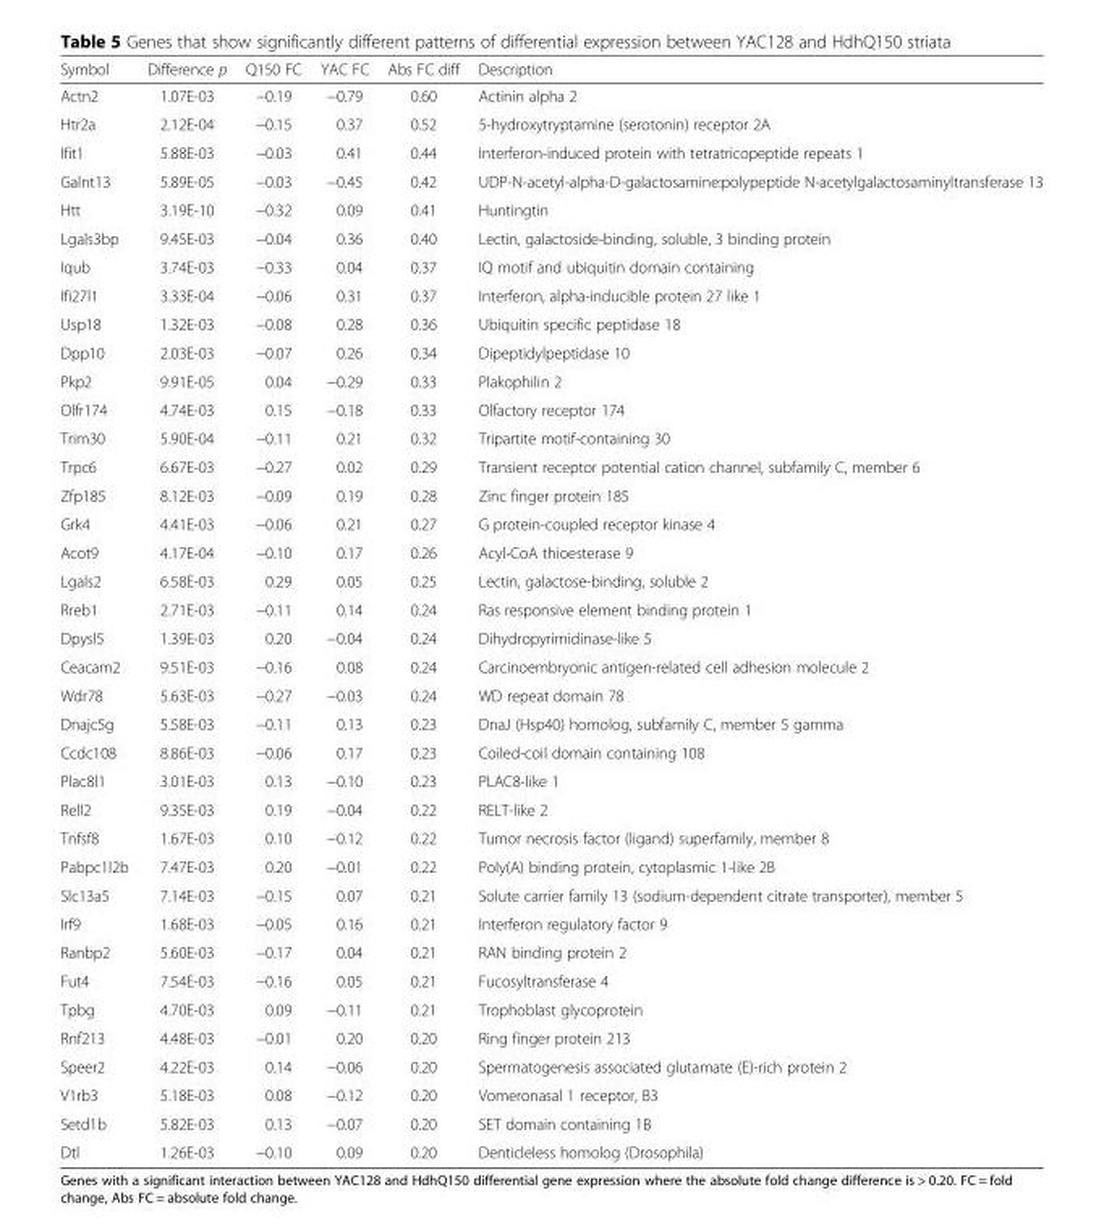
<table><thead><tr><td>Symbol</td><td>Difference p</td><td>Q150 FC</td><td>YAC FC</td><td>Abs FC diff</td><td>Description</td></tr></thead><tbody><tr><td>Actn2</td><td>1.07E-03</td><td>−0.19</td><td>−0.79</td><td>0.60</td><td>Actinin alpha 2</td></tr><tr><td>Htr2a</td><td>2.12E-04</td><td>−0.15</td><td>0.37</td><td>0.52</td><td>5-hydroxytryptamine (serotonin) receptor 2A</td></tr><tr><td>Ifit1</td><td>5.88E-03</td><td>−0.03</td><td>0.41</td><td>0.44</td><td>Interferon-induced protein with tetratricopeptide repeats 1</td></tr><tr><td>Galnt13</td><td>5.89E-05</td><td>−0.03</td><td>−0.45</td><td>0.42</td><td>UDP-N-acetyl-alpha-D-galactosamine:polypeptide N-acetylgalactosaminyltransferase 13</td></tr><tr><td>Htt</td><td>3.19E-10</td><td>−0.32</td><td>0.09</td><td>0.41</td><td>Huntingtin</td></tr><tr><td>Lgals3bp</td><td>9.45E-03</td><td>−0.04</td><td>0.36</td><td>0.40</td><td>Lectin, galactoside-binding, soluble, 3 binding protein</td></tr><tr><td>Iqub</td><td>3.74E-03</td><td>−0.33</td><td>0.04</td><td>0.37</td><td>IQ motif and ubiquitin domain containing</td></tr><tr><td>Ifi27l1</td><td>3.33E-04</td><td>−0.06</td><td>0.31</td><td>0.37</td><td>Interferon, alpha-inducible protein 27 like 1</td></tr><tr><td>Usp18</td><td>1.32E-03</td><td>−0.08</td><td>0.28</td><td>0.36</td><td>Ubiquitin specific peptidase 18</td></tr><tr><td>Dpp10</td><td>2.03E-03</td><td>−0.07</td><td>0.26</td><td>0.34</td><td>Dipeptidylpeptidase 10</td></tr><tr><td>Pkp2</td><td>9.91E-05</td><td>0.04</td><td>−0.29</td><td>0.33</td><td>Plakophilin 2</td></tr><tr><td>Olfr174</td><td>4.74E-03</td><td>0.15</td><td>−0.18</td><td>0.33</td><td>Olfactory receptor 174</td></tr><tr><td>Trim30</td><td>5.90E-04</td><td>−0.11</td><td>0.21</td><td>0.32</td><td>Tripartite motif-containing 30</td></tr><tr><td>Trpc6</td><td>6.67E-03</td><td>−0.27</td><td>0.02</td><td>0.29</td><td>Transient receptor potential cation channel, subfamily C, member 6</td></tr><tr><td>Zfp185</td><td>8.12E-03</td><td>−0.09</td><td>0.19</td><td>0.28</td><td>Zinc finger protein 185</td></tr><tr><td>Grk4</td><td>4.41E-03</td><td>−0.06</td><td>0.21</td><td>0.27</td><td>G protein-coupled receptor kinase 4</td></tr><tr><td>Acot9</td><td>4.17E-04</td><td>−0.10</td><td>0.17</td><td>0.26</td><td>Acyl-CoA thioesterase 9</td></tr><tr><td>Lgals2</td><td>6.58E-03</td><td>0.29</td><td>0.05</td><td>0.25</td><td>Lectin, galactose-binding, soluble 2</td></tr><tr><td>Rreb1</td><td>2.71E-03</td><td>−0.11</td><td>0.14</td><td>0.24</td><td>Ras responsive element binding protein 1</td></tr><tr><td>Dpysl5</td><td>1.39E-03</td><td>0.20</td><td>−0.04</td><td>0.24</td><td>Dihydropyrimidinase-like 5</td></tr><tr><td>Ceacam2</td><td>9.51E-03</td><td>−0.16</td><td>0.08</td><td>0.24</td><td>Carcinoembryonic antigen-related cell adhesion molecule 2</td></tr><tr><td>Wdr78</td><td>5.63E-03</td><td>−0.27</td><td>−0.03</td><td>0.24</td><td>WD repeat domain 78</td></tr><tr><td>Dnajc5g</td><td>5.58E-03</td><td>−0.11</td><td>0.13</td><td>0.23</td><td>DnaJ (Hsp40) homolog, subfamily C, member 5 gamma</td></tr><tr><td>Ccdc108</td><td>8.86E-03</td><td>−0.06</td><td>0.17</td><td>0.23</td><td>Coiled-coil domain containing 108</td></tr><tr><td>Plac8l1</td><td>3.01E-03</td><td>0.13</td><td>−0.10</td><td>0.23</td><td>PLAC8-like 1</td></tr><tr><td>Rell2</td><td>9.35E-03</td><td>0.19</td><td>−0.04</td><td>0.22</td><td>RELT-like 2</td></tr><tr><td>Tnfsf8</td><td>1.67E-03</td><td>0.10</td><td>−0.12</td><td>0.22</td><td>Tumor necrosis factor (ligand) superfamily, member 8</td></tr><tr><td>Pabpc1l2b</td><td>7.47E-03</td><td>0.20</td><td>−0.01</td><td>0.22</td><td>Poly(A) binding protein, cytoplasmic 1-like 2B</td></tr><tr><td>Slc13a5</td><td>7.14E-03</td><td>−0.15</td><td>0.07</td><td>0.21</td><td>Solute carrier family 13 (sodium-dependent citrate transporter), member 5</td></tr><tr><td>Irf9</td><td>1.68E-03</td><td>−0.05</td><td>0.16</td><td>0.21</td><td>Interferon regulatory factor 9</td></tr><tr><td>Ranbp2</td><td>5.60E-03</td><td>−0.17</td><td>0.04</td><td>0.21</td><td>RAN binding protein 2</td></tr><tr><td>Fut4</td><td>7.54E-03</td><td>−0.16</td><td>0.05</td><td>0.21</td><td>Fucosyltransferase 4</td></tr><tr><td>Tpbg</td><td>4.70E-03</td><td>0.09</td><td>−0.11</td><td>0.21</td><td>Trophoblast glycoprotein</td></tr><tr><td>Rnf213</td><td>4.48E-03</td><td>−0.01</td><td>0.20</td><td>0.20</td><td>Ring finger protein 213</td></tr><tr><td>Speer2</td><td>4.22E-03</td><td>0.14</td><td>−0.06</td><td>0.20</td><td>Spermatogenesis associated glutamate (E)-rich protein 2</td></tr><tr><td>V1rb3</td><td>5.18E-03</td><td>0.08</td><td>−0.12</td><td>0.20</td><td>Vomeronasal 1 receptor, B3</td></tr><tr><td>Setd1b</td><td>5.82E-03</td><td>0.13</td><td>−0.07</td><td>0.20</td><td>SET domain containing 1B</td></tr><tr><td>Dtl</td><td>1.26E-03</td><td>−0.10</td><td>0.09</td><td>0.20</td><td>Denticleless homolog (Drosophila)</td></tr></tbody></table>